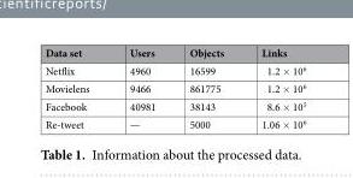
<table><thead><tr><td>Data set</td><td>Users</td><td>Objects</td><td>Links</td></tr></thead><tbody><tr><td>Netflix</td><td>4960</td><td>16599</td><td>1.2 × 10<sup>6</sup></td></tr><tr><td>Movielens</td><td>9466</td><td>861775</td><td>1.2 × 10<sup>6</sup></td></tr><tr><td>Facebook</td><td>40981</td><td>38143</td><td>8.6 × 10<sup>5</sup></td></tr><tr><td>Re-tweet</td><td>—</td><td>5000</td><td>1.06 × 10<sup>6</sup></td></tr></tbody></table>